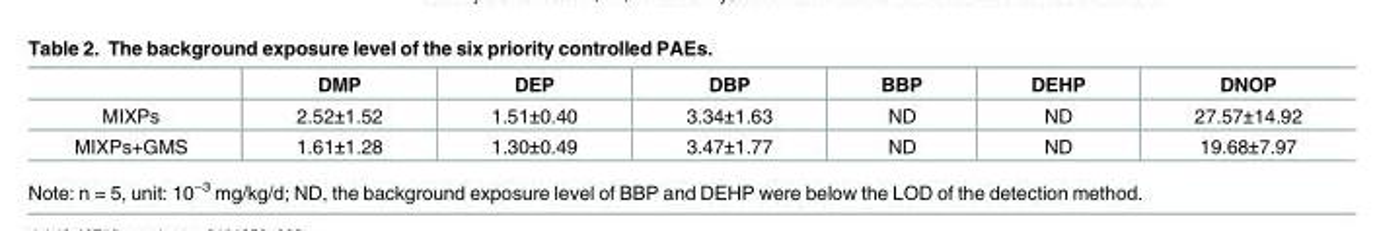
<table><thead><tr><td></td><td>DMP</td><td>DEP</td><td>DBP</td><td>BBP</td><td>DEHP</td><td>DNOP</td></tr></thead><tbody><tr><td>MIXPs</td><td>2.52±1.52</td><td>1.51±0.40</td><td>3.34±1.63</td><td>ND</td><td>ND</td><td>27.57±14.92</td></tr><tr><td>MIXPs+GMS</td><td>1.61±1.28</td><td>1.30±0.49</td><td>3.47±1.77</td><td>ND</td><td>ND</td><td>19.68±7.97</td></tr></tbody></table>